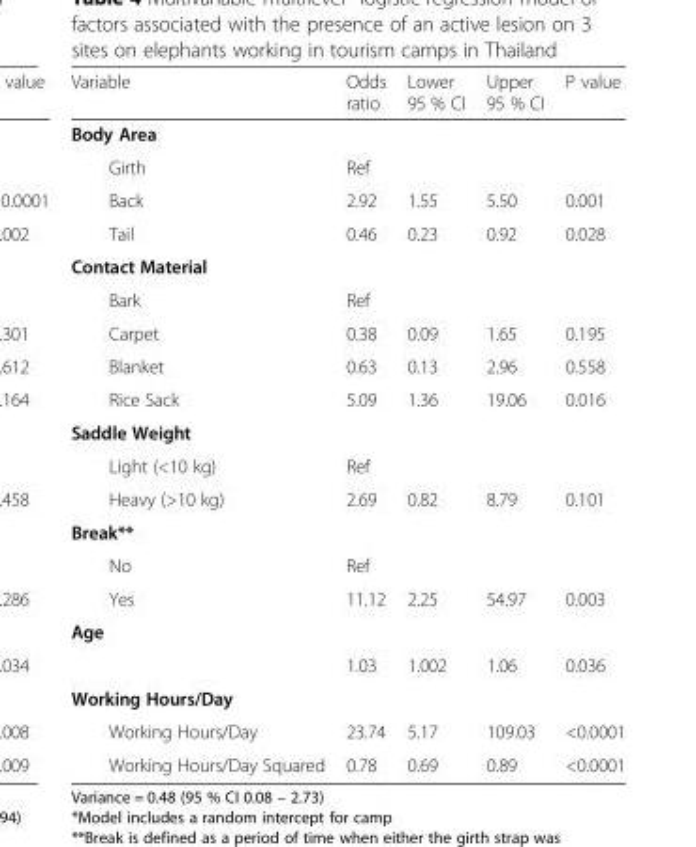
<table><thead><tr><td>Variable</td><td>Odds ratio</td><td>Lower 95 % CI</td><td>Upper 95 % CI</td><td>P value</td></tr></thead><tbody><tr><td colspan="5">Body Area</td></tr><tr><td>Girth</td><td>Ref</td><td></td><td></td><td></td></tr><tr><td>Back</td><td>2.92</td><td>1.55</td><td>5.50</td><td>0.001</td></tr><tr><td>Tail</td><td>0.46</td><td>0.23</td><td>0.92</td><td>0.028</td></tr><tr><td colspan="5">Contact Material</td></tr><tr><td>Bark</td><td>Ref</td><td></td><td></td><td></td></tr><tr><td>Carpet</td><td>0.38</td><td>0.09</td><td>1.65</td><td>0.195</td></tr><tr><td>Blanket</td><td>0.63</td><td>0.13</td><td>2.96</td><td>0.558</td></tr><tr><td>Rice Sack</td><td>5.09</td><td>1.36</td><td>19.06</td><td>0.016</td></tr><tr><td colspan="5">Saddle Weight</td></tr><tr><td>Light (&lt;10 kg)</td><td>Ref</td><td></td><td></td><td></td></tr><tr><td>Heavy (&gt;10 kg)</td><td>2.69</td><td>0.82</td><td>8.79</td><td>0.101</td></tr><tr><td colspan="5">Break**</td></tr><tr><td>No</td><td>Ref</td><td></td><td></td><td></td></tr><tr><td>Yes</td><td>11.12</td><td>2.25</td><td>54.97</td><td>0.003</td></tr><tr><td colspan="5">Age</td></tr><tr><td></td><td>1.03</td><td>1.002</td><td>1.06</td><td>0.036</td></tr><tr><td colspan="5">Working Hours/Day</td></tr><tr><td>Working Hours/Day</td><td>23.74</td><td>5.17</td><td>109.03</td><td>&lt;0.0001</td></tr><tr><td>Working Hours/Day Squared</td><td>0.78</td><td>0.69</td><td>0.89</td><td>&lt;0.0001</td></tr></tbody></table>